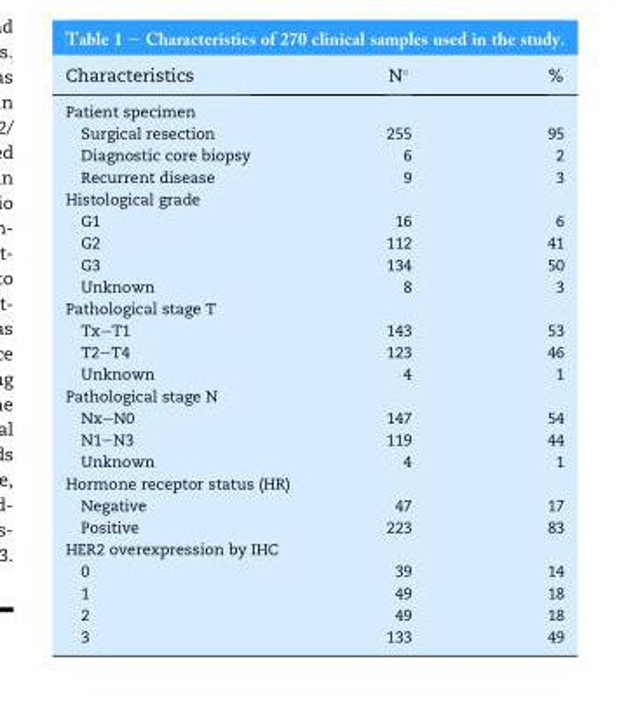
<table><thead><tr><td>Characteristics</td><td>N°</td><td>%</td></tr></thead><tbody><tr><td colspan="3">Patient specimen</td></tr><tr><td>Surgical resection</td><td>255</td><td>95</td></tr><tr><td>Diagnostic core biopsy</td><td>6</td><td>2</td></tr><tr><td>Recurrent disease</td><td>9</td><td>3</td></tr><tr><td colspan="3">Histological grade</td></tr><tr><td>G1</td><td>16</td><td>6</td></tr><tr><td>G2</td><td>112</td><td>41</td></tr><tr><td>G3</td><td>134</td><td>50</td></tr><tr><td>Unknown</td><td>8</td><td>3</td></tr><tr><td colspan="3">Pathological stage T</td></tr><tr><td>Tx–T1</td><td>143</td><td>53</td></tr><tr><td>T2–T4</td><td>123</td><td>46</td></tr><tr><td>Unknown</td><td>4</td><td>1</td></tr><tr><td colspan="3">Pathological stage N</td></tr><tr><td>Nx–N0</td><td>147</td><td>54</td></tr><tr><td>N1–N3</td><td>119</td><td>44</td></tr><tr><td>Unknown</td><td>4</td><td>1</td></tr><tr><td colspan="3">Hormone receptor status (HR)</td></tr><tr><td>Negative</td><td>47</td><td>17</td></tr><tr><td>Positive</td><td>223</td><td>83</td></tr><tr><td colspan="3">HER2 overexpression by IHC</td></tr><tr><td>0</td><td>39</td><td>14</td></tr><tr><td>1</td><td>49</td><td>18</td></tr><tr><td>2</td><td>49</td><td>18</td></tr><tr><td>3</td><td>133</td><td>49</td></tr></tbody></table>